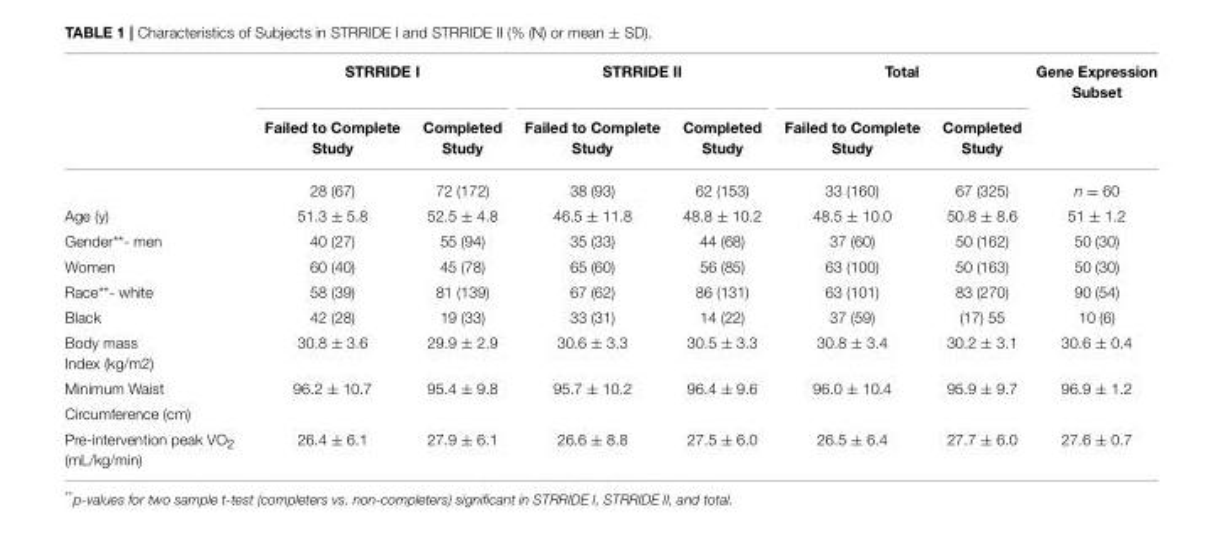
<table><thead><tr><td rowspan="2"></td><td colspan="2">STRRIDE I</td><td colspan="2">STRRIDE II</td><td colspan="2">Total</td><td rowspan="2">Gene Expression Subset</td></tr><tr><td>Failed to Complete Study</td><td>Completed Study</td><td>Failed to Complete Study</td><td>Completed Study</td><td>Failed to Complete Study</td><td>Completed Study</td></tr></thead><tbody><tr><td></td><td>28 (67)</td><td>72 (172)</td><td>38 (93)</td><td>62 (153)</td><td>33 (160)</td><td>67 (325)</td><td>n = 60</td></tr><tr><td>Age (y)</td><td>51.3 ± 5.8</td><td>52.5 ± 4.8</td><td>46.5 ± 11.8</td><td>48.8 ± 10.2</td><td>48.5 ± 10.0</td><td>50.8 ± 8.6</td><td>51 ± 1.2</td></tr><tr><td>Gender**- men</td><td>40 (27)</td><td>55 (94)</td><td>35 (33)</td><td>44 (68)</td><td>37 (60)</td><td>50 (162)</td><td>50 (30)</td></tr><tr><td>Women</td><td>60 (40)</td><td>45 (78)</td><td>65 (60)</td><td>56 (85)</td><td>63 (100)</td><td>50 (163)</td><td>50 (30)</td></tr><tr><td>Race**- white</td><td>58 (39)</td><td>81 (139)</td><td>67 (62)</td><td>86 (131)</td><td>63 (101)</td><td>83 (270)</td><td>90 (54)</td></tr><tr><td>Black</td><td>42 (28)</td><td>19 (33)</td><td>33 (31)</td><td>14 (22)</td><td>37 (59)</td><td>(17) 55</td><td>10 (6)</td></tr><tr><td>Body mass Index (kg/m2)</td><td>30.8 ± 3.6</td><td>29.9 ± 2.9</td><td>30.6 ± 3.3</td><td>30.5 ± 3.3</td><td>30.8 ± 3.4</td><td>30.2 ± 3.1</td><td>30.6 ± 0.4</td></tr><tr><td>Minimum Waist</td><td>96.2 ± 10.7</td><td>95.4 ± 9.8</td><td>95.7 ± 10.2</td><td>96.4 ± 9.6</td><td>96.0 ± 10.4</td><td>95.9 ± 9.7</td><td>96.9 ± 1.2</td></tr><tr><td colspan="8">Circumference (cm)</td></tr><tr><td>Pre-intervention peak VO<sub>2</sub> (mL/kg/min)</td><td>26.4 ± 6.1</td><td>27.9 ± 6.1</td><td>26.6 ± 8.8</td><td>27.5 ± 6.0</td><td>26.5 ± 6.4</td><td>27.7 ± 6.0</td><td>27.6 ± 0.7</td></tr></tbody></table>